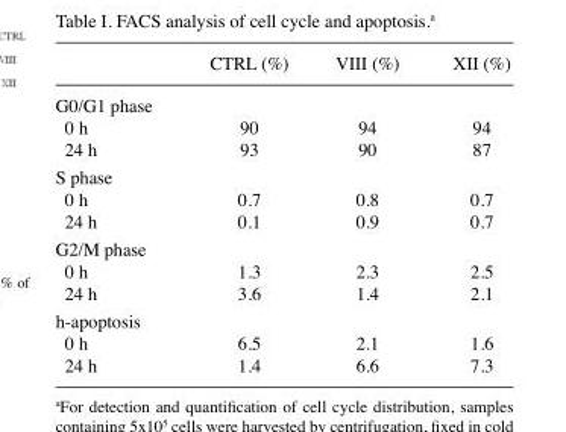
<table><thead><tr><td></td><td>CTRL (%)</td><td>VIII (%)</td><td>XII (%)</td></tr></thead><tbody><tr><td colspan="4">G0/G1 phase</td></tr><tr><td>0 h</td><td>90</td><td>94</td><td>94</td></tr><tr><td>24 h</td><td>93</td><td>90</td><td>87</td></tr><tr><td colspan="4">S phase</td></tr><tr><td>0 h</td><td>0.7</td><td>0.8</td><td>0.7</td></tr><tr><td>24 h</td><td>0.1</td><td>0.9</td><td>0.7</td></tr><tr><td colspan="4">G2/M phase</td></tr><tr><td>0 h</td><td>1.3</td><td>2.3</td><td>2.5</td></tr><tr><td>24 h</td><td>3.6</td><td>1.4</td><td>2.1</td></tr><tr><td colspan="4">h-apoptosis</td></tr><tr><td>0 h</td><td>6.5</td><td>2.1</td><td>1.6</td></tr><tr><td>24 h</td><td>1.4</td><td>6.6</td><td>7.3</td></tr></tbody></table>